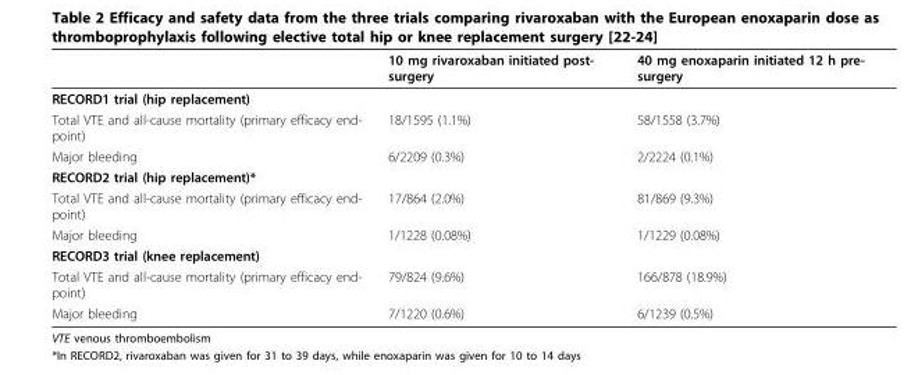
<table><thead><tr><td></td><td>10 mg rivaroxaban initiated post- surgery</td><td>40 mg enoxaparin initiated 12 h pre- surgery</td></tr></thead><tbody><tr><td colspan="3">RECORD1 trial (hip replacement)</td></tr><tr><td>Total VTE and all-cause mortality (primary efficacy end- point)</td><td>18/1595 (1.1%)</td><td>58/1558 (3.7%)</td></tr><tr><td>Major bleeding</td><td>6/2209 (0.3%)</td><td>2/2224 (0.1%)</td></tr><tr><td colspan="3">RECORD2 trial (hip replacement)*</td></tr><tr><td>Total VTE and all-cause mortality (primary efficacy end- point)</td><td>17/864 (2.0%)</td><td>81/869 (9.3%)</td></tr><tr><td>Major bleeding</td><td>1/1228 (0.08%)</td><td>1/1229 (0.08%)</td></tr><tr><td colspan="3">RECORD3 trial (knee replacement)</td></tr><tr><td>Total VTE and all-cause mortality (primary efficacy end- point)</td><td>79/824 (9.6%)</td><td>166/878 (18.9%)</td></tr><tr><td>Major bleeding</td><td>7/1220 (0.6%)</td><td>6/1239 (0.5%)</td></tr></tbody></table>